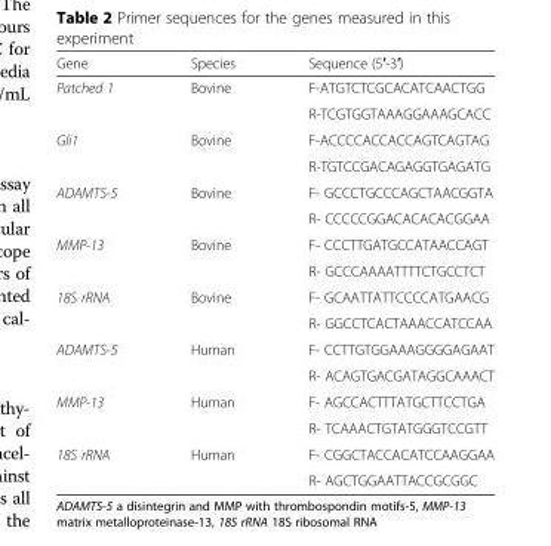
<table><thead><tr><td>Gene</td><td>Species</td><td>Sequence (5′-3′)</td></tr></thead><tbody><tr><td rowspan="2">Patched 1</td><td rowspan="2">Bovine</td><td>F-ATGTCTCGCACATCAACTGG</td></tr><tr><td>R-TCGTGGTAAAGGAAAGCACC</td></tr><tr><td rowspan="2">Gli1</td><td rowspan="2">Bovine</td><td>F-ACCCCACCACCAGTCAGTAG</td></tr><tr><td>R-TGTCCGACAGAGGTGAGATG</td></tr><tr><td rowspan="2">ADAMTS-5</td><td rowspan="2">Bovine</td><td>F- GCCCTGCCCAGCTAACGGTA</td></tr><tr><td>R- CCCCCGGACACACACGGAA</td></tr><tr><td rowspan="2">MMP-13</td><td rowspan="2">Bovine</td><td>F- CCCTTGATGCCATAACCAGT</td></tr><tr><td>R- GCCCAAAATTTTCTGCCTCT</td></tr><tr><td rowspan="2">18S rRNA</td><td rowspan="2">Bovine</td><td>F- GCAATTATTCCCCATGAACG</td></tr><tr><td>R- GGCCTCACTAAACCATCCAA</td></tr><tr><td rowspan="2">ADAMTS-5</td><td rowspan="2">Human</td><td>F- CCTTGTGGAAAGGGGAGAAT</td></tr><tr><td>R- ACAGTGACGATAGGCAAACT</td></tr><tr><td rowspan="2">MMP-13</td><td rowspan="2">Human</td><td>F- AGCCACTTTATGCTTCCTGA</td></tr><tr><td>R- TCAAACTGTATGGGTCCGTT</td></tr><tr><td rowspan="2">18S rRNA</td><td rowspan="2">Human</td><td>F- CGGCTACCACATCCAAGGAA</td></tr><tr><td>R- AGCTGGAATTACCGCGGC</td></tr></tbody></table>